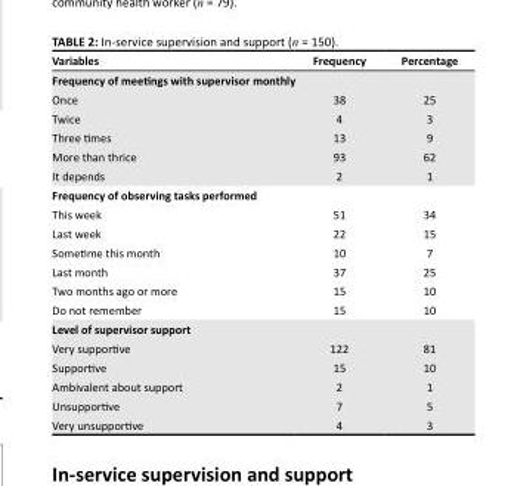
<table><thead><tr><td>Variables</td><td>Frequency</td><td>Percentage</td></tr></thead><tbody><tr><td colspan="3">Frequency of meetings with supervisor monthly</td></tr><tr><td>Once</td><td>38</td><td>25</td></tr><tr><td>Twice</td><td>4</td><td>3</td></tr><tr><td>Three times</td><td>13</td><td>9</td></tr><tr><td>More than thrice</td><td>93</td><td>62</td></tr><tr><td>It depends</td><td>2</td><td>1</td></tr><tr><td colspan="3">Frequency of observing tasks performed</td></tr><tr><td>This week</td><td>51</td><td>34</td></tr><tr><td>Last week</td><td>22</td><td>15</td></tr><tr><td>Sometime this month</td><td>10</td><td>7</td></tr><tr><td>Last month</td><td>37</td><td>25</td></tr><tr><td>Two months ago or more</td><td>15</td><td>10</td></tr><tr><td>Do not remember</td><td>15</td><td>10</td></tr><tr><td colspan="3">Level of supervisor support</td></tr><tr><td>Very supportive</td><td>122</td><td>81</td></tr><tr><td>Supportive</td><td>15</td><td>10</td></tr><tr><td>Ambivalent about support</td><td>2</td><td>1</td></tr><tr><td>Unsupportive</td><td>7</td><td>5</td></tr><tr><td>Very unsupportive</td><td>4</td><td>3</td></tr></tbody></table>